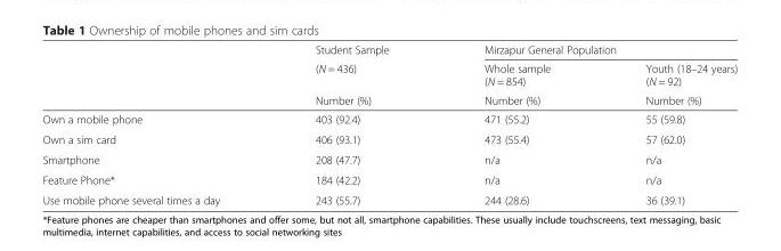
<table><thead><tr><td rowspan="3"></td><td rowspan="3">Student Sample (N = 436) Number (%)</td><td colspan="2">Mirzapur General Population</td></tr><tr><td rowspan="2">Whole sample (N = 854) Number (%)</td><td rowspan="2">Youth (18–24 years) (N = 92) Number (%)</td></tr><tr></tr></thead><tbody><tr><td>Own a mobile phone</td><td>403 (92.4)</td><td>471 (55.2)</td><td>55 (59.8)</td></tr><tr><td>Own a sim card</td><td>406 (93.1)</td><td>473 (55.4)</td><td>57 (62.0)</td></tr><tr><td>Smartphone</td><td>208 (47.7)</td><td>n/a</td><td>n/a</td></tr><tr><td>Feature Phone*</td><td>184 (42.2)</td><td>n/a</td><td>n/a</td></tr><tr><td>Use mobile phone several times a day</td><td>243 (55.7)</td><td>244 (28.6)</td><td>36 (39.1)</td></tr></tbody></table>